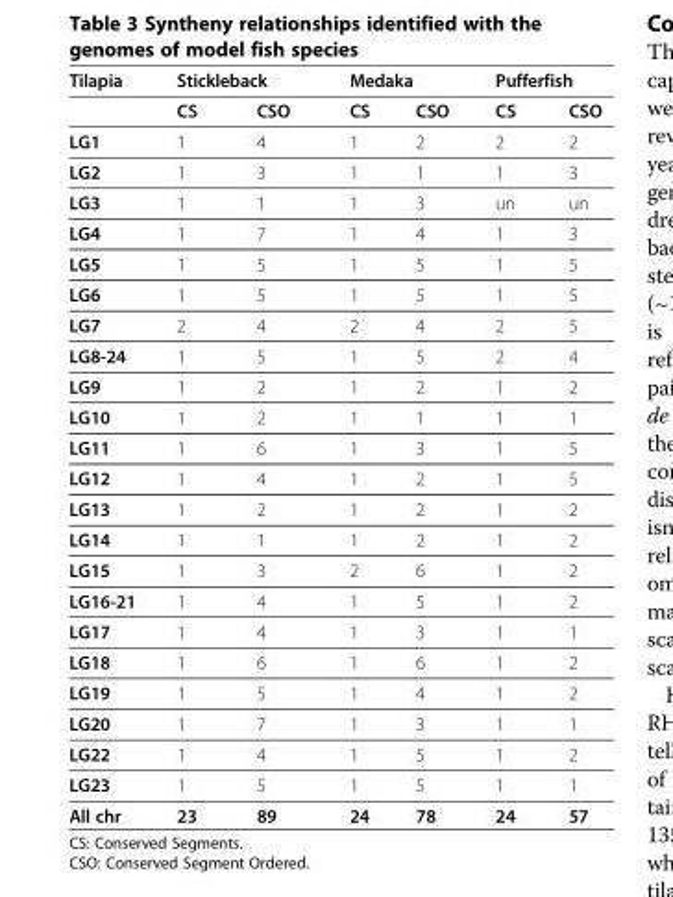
<table><thead><tr><td rowspan="2">Tilapia</td><td colspan="2">Stickleback</td><td colspan="2">Medaka</td><td colspan="2">Pufferfish</td></tr><tr><td>CS</td><td>CSO</td><td>CS</td><td>CSO</td><td>CS</td><td>CSO</td></tr></thead><tbody><tr><td>LG1</td><td>1</td><td>4</td><td>1</td><td>2</td><td>2</td><td>2</td></tr><tr><td>LG2</td><td>1</td><td>3</td><td>1</td><td>1</td><td>1</td><td>3</td></tr><tr><td>LG3</td><td>1</td><td>1</td><td>1</td><td>3</td><td>un</td><td>un</td></tr><tr><td>LG4</td><td>1</td><td>7</td><td>1</td><td>4</td><td>1</td><td>3</td></tr><tr><td>LG5</td><td>1</td><td>5</td><td>1</td><td>5</td><td>1</td><td>5</td></tr><tr><td>LG6</td><td>1</td><td>5</td><td>1</td><td>5</td><td>1</td><td>5</td></tr><tr><td>LG7</td><td>2</td><td>4</td><td>2</td><td>4</td><td>2</td><td>5</td></tr><tr><td>LG8-24</td><td>1</td><td>5</td><td>1</td><td>5</td><td>2</td><td>4</td></tr><tr><td>LG9</td><td>1</td><td>2</td><td>1</td><td>2</td><td>1</td><td>2</td></tr><tr><td>LG10</td><td>1</td><td>2</td><td>1</td><td>1</td><td>1</td><td>1</td></tr><tr><td>LG11</td><td>1</td><td>6</td><td>1</td><td>3</td><td>1</td><td>5</td></tr><tr><td>LG12</td><td>1</td><td>4</td><td>1</td><td>2</td><td>1</td><td>5</td></tr><tr><td>LG13</td><td>1</td><td>2</td><td>1</td><td>2</td><td>1</td><td>2</td></tr><tr><td>LG14</td><td>1</td><td>1</td><td>1</td><td>2</td><td>1</td><td>2</td></tr><tr><td>LG15</td><td>1</td><td>3</td><td>2</td><td>6</td><td>1</td><td>2</td></tr><tr><td>LG16-21</td><td>1</td><td>4</td><td>1</td><td>5</td><td>1</td><td>2</td></tr><tr><td>LG17</td><td>1</td><td>4</td><td>1</td><td>3</td><td>1</td><td>1</td></tr><tr><td>LG18</td><td>1</td><td>6</td><td>1</td><td>6</td><td>1</td><td>2</td></tr><tr><td>LG19</td><td>1</td><td>5</td><td>1</td><td>4</td><td>1</td><td>2</td></tr><tr><td>LG20</td><td>1</td><td>7</td><td>1</td><td>3</td><td>1</td><td>1</td></tr><tr><td>LG22</td><td>1</td><td>4</td><td>1</td><td>5</td><td>1</td><td>2</td></tr><tr><td>LG23</td><td>1</td><td>5</td><td>1</td><td>5</td><td>1</td><td>1</td></tr><tr><td>All chr</td><td>23</td><td>89</td><td>24</td><td>78</td><td>24</td><td>57</td></tr></tbody></table>